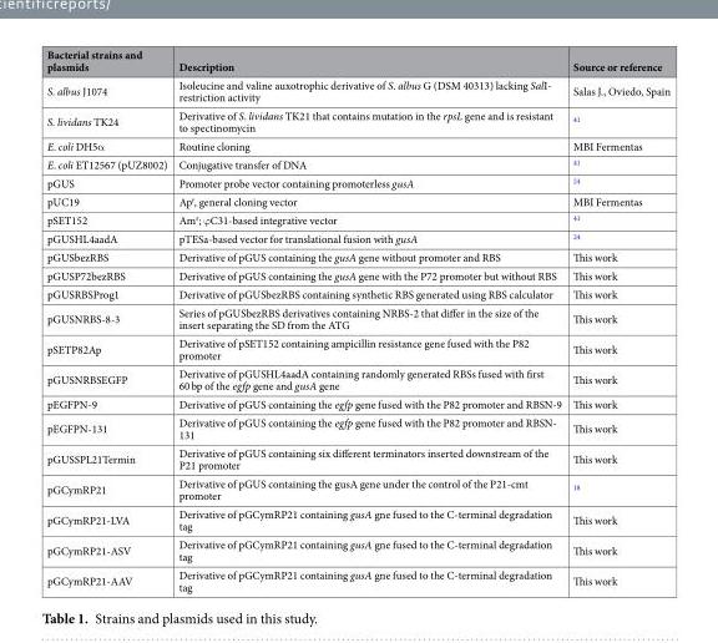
<table><tbody><tr><td>Bacterial strains and plasmids</td><td>Description</td><td>Source or reference</td></tr><tr><td>S. albus J1074</td><td>Isoleucine and valine auxotrophic derivative of S. albus G (DSM 40313) lacking SalI- restriction activity</td><td>Salas J., Oviedo, Spain</td></tr><tr><td>S. lividans TK24</td><td>Derivative of S. lividans TK21 that contains mutation in the rpsL gene and is resistant to spectinomycin</td><td><sup>41</sup></td></tr><tr><td>E. coli DH5α</td><td>Routine cloning</td><td>MBI Fermentas</td></tr><tr><td>E. coli ET12567 (pUZ8002)</td><td>Conjugative transfer of DNA</td><td><sup>41</sup></td></tr><tr><td>pGUS</td><td>Promoter probe vector containing promoterless gusA</td><td><sup>24</sup></td></tr><tr><td>pUC19</td><td>Ap<sup>r</sup>, general cloning vector</td><td>MBI Fermentas</td></tr><tr><td>pSET152</td><td>Am<sup>r</sup>; ϕC31-based integrative vector</td><td><sup>41</sup></td></tr><tr><td>pGUSHL4aadA</td><td>pTESa-based vector for translational fusion with gusA</td><td><sup>24</sup></td></tr><tr><td>pGUSbezRBS</td><td>Derivative of pGUS containing the gusA gene without promoter and RBS</td><td>This work</td></tr><tr><td>pGUSP72bezRBS</td><td>Derivative of pGUS containing the gusA gene with the P72 promoter but without RBS</td><td>This work</td></tr><tr><td>pGUSRBSProg1</td><td>Derivative of pGUSbezRBS containing synthetic RBS generated using RBS calculator</td><td>This work</td></tr><tr><td>pGUSNRBS-8-3</td><td>Series of pGUSbezRBS derivatives containing NRBS-2 that differ in the size of the insert separating the SD from the ATG</td><td>This work</td></tr><tr><td>pSETP82Ap</td><td>Derivative of pSET152 containing ampicillin resistance gene fused with the P82 promoter</td><td>This work</td></tr><tr><td>pGUSNRBSEGFP</td><td>Derivative of pGUSHL4aadA containing randomly generated RBSs fused with first 60 bp of the egfp gene and gusA gene</td><td>This work</td></tr><tr><td>pEGFPN-9</td><td>Derivative of pGUS containing the egfp gene fused with the P82 promoter and RBSN-9</td><td>This work</td></tr><tr><td>pEGFPN-131</td><td>Derivative of pGUS containing the egfp gene fused with the P82 promoter and RBSN- 131</td><td>This work</td></tr><tr><td>pGUSSPL21Termin</td><td>Derivative of pGUS containing six different terminators inserted downstream of the P21 promoter</td><td>This work</td></tr><tr><td>pGCymRP21</td><td>Derivative of pGUS containing the gusA gene under the control of the P21-cmt promoter</td><td><sup>18</sup></td></tr><tr><td>pGCymRP21-LVA</td><td>Derivative of pGCymRP21 containing gusA gne fused to the C-terminal degradation tag</td><td>This work</td></tr><tr><td>pGCymRP21-ASV</td><td>Derivative of pGCymRP21 containing gusA gne fused to the C-terminal degradation tag</td><td>This work</td></tr><tr><td>pGCymRP21-AAV</td><td>Derivative of pGCymRP21 containing gusA gne fused to the C-terminal degradation tag</td><td>This work</td></tr></tbody></table>